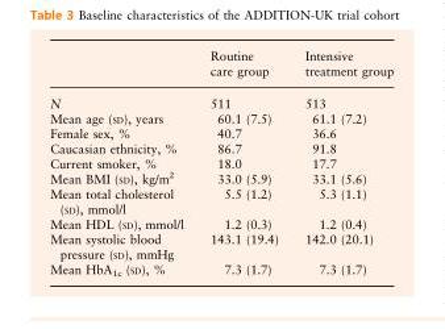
<table><thead><tr><td></td><td>Routine care group</td><td>Intensive treatment group</td></tr></thead><tbody><tr><td>N</td><td>511</td><td>513</td></tr><tr><td>Mean age (SD), years</td><td>60.1 (7.5)</td><td>61.1 (7.2)</td></tr><tr><td>Female sex, %</td><td>40.7</td><td>36.6</td></tr><tr><td>Caucasian ethnicity, %</td><td>86.7</td><td>91.8</td></tr><tr><td>Current smoker, %</td><td>18.0</td><td>17.7</td></tr><tr><td>Mean BMI (SD), kg/m<sup>2</sup></td><td>33.0 (5.9)</td><td>33.1 (5.6)</td></tr><tr><td>Mean total cholesterol (SD), mmol/l</td><td>5.5 (1.2)</td><td>5.3 (1.1)</td></tr><tr><td>Mean HDL (SD), mmol/l</td><td>1.2 (0.3)</td><td>1.2 (0.4)</td></tr><tr><td>Mean systolic blood pressure (SD), mmHg</td><td>143.1 (19.4)</td><td>142.0 (20.1)</td></tr><tr><td>Mean HbA<sub>1c</sub> (SD), %</td><td>7.3 (1.7)</td><td>7.3 (1.7)</td></tr></tbody></table>